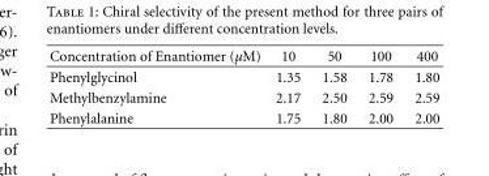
<table><thead><tr><td>Concentration of Enantiomer (μM)</td><td>10</td><td>50</td><td>100</td><td>400</td></tr></thead><tbody><tr><td>Phenylglycinol</td><td>1.35</td><td>1.58</td><td>1.78</td><td>1.80</td></tr><tr><td>Methylbenzylamine</td><td>2.17</td><td>2.50</td><td>2.59</td><td>2.59</td></tr><tr><td>Phenylalanine</td><td>1.75</td><td>1.80</td><td>2.00</td><td>2.00</td></tr></tbody></table>